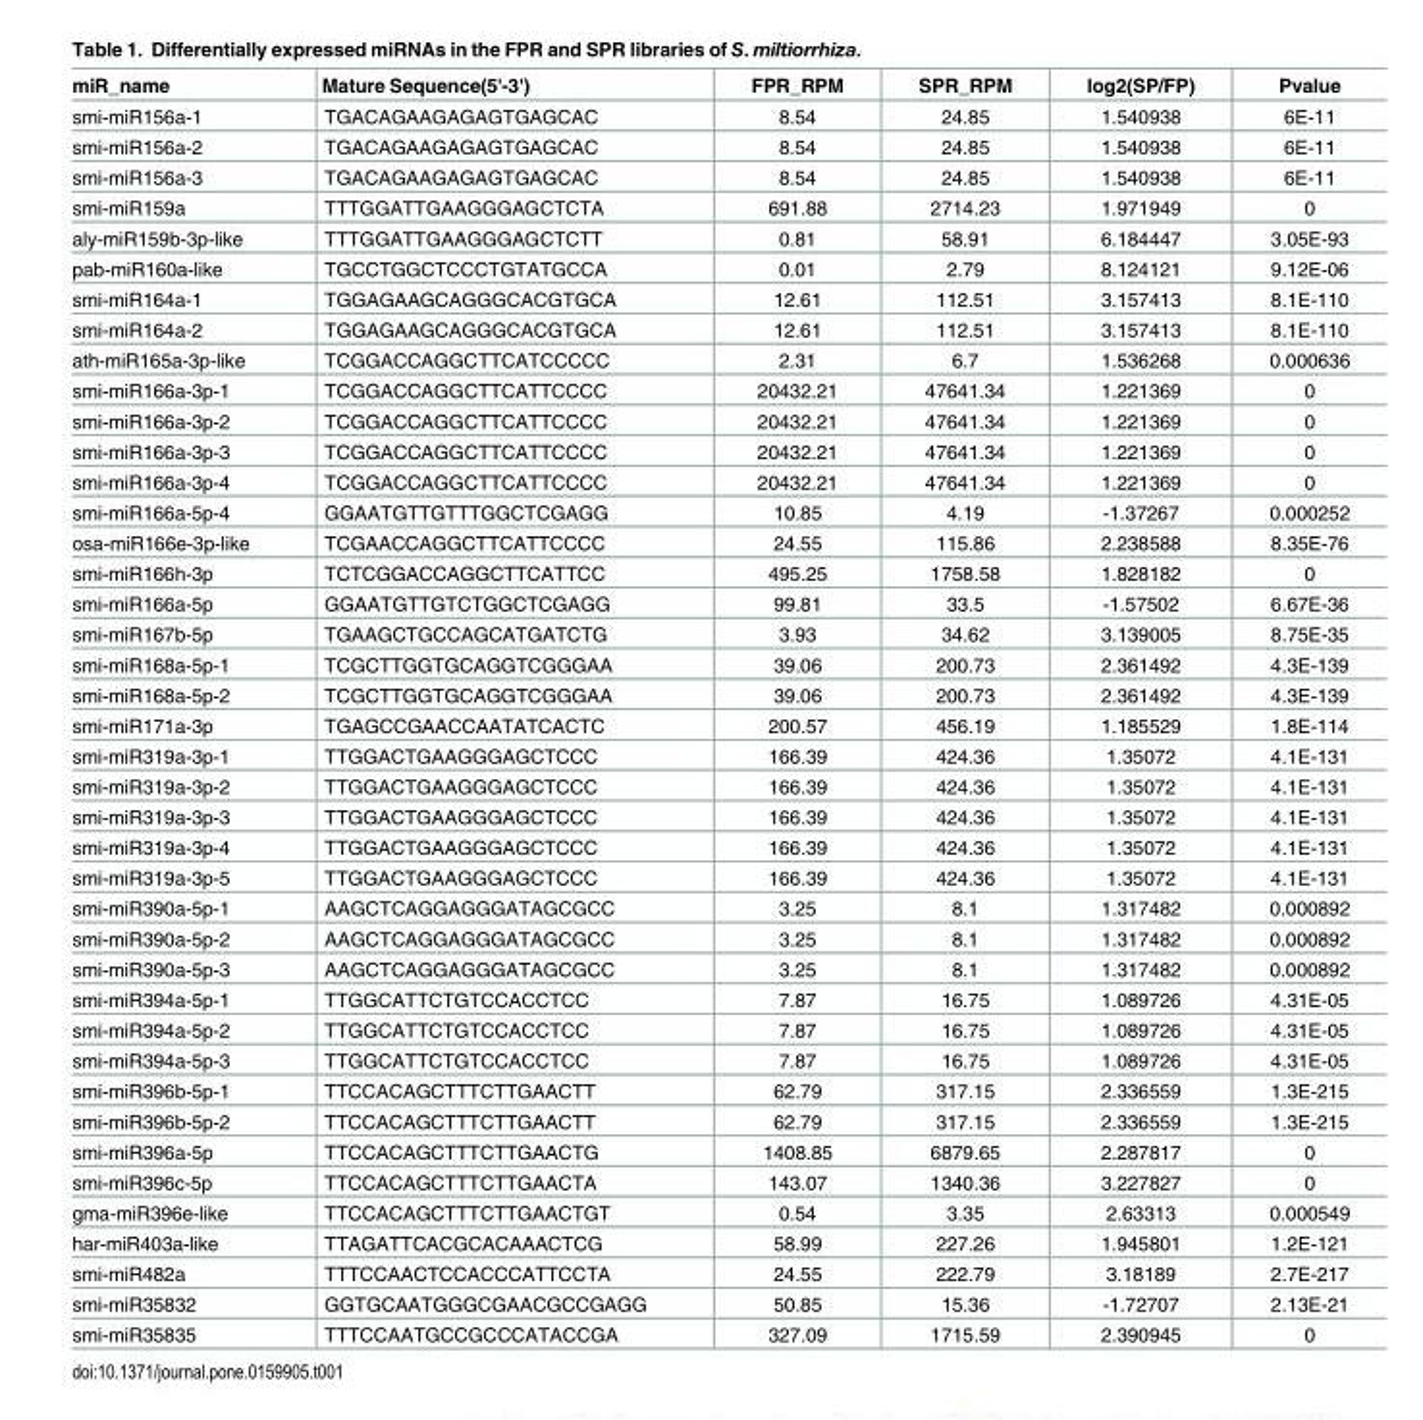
<table><thead><tr><td>miR_name</td><td>Mature Sequence(5&#x27;-3&#x27;)</td><td>FPR_RPM</td><td>SPR_RPM</td><td>log2(SP/FP)</td><td>Pvalue</td></tr></thead><tbody><tr><td>smi-miR156a-1</td><td>TGACAGAAGAGAGTGAGCAC</td><td>8.54</td><td>24.85</td><td>1.540938</td><td>6E-11</td></tr><tr><td>smi-miR156a-2</td><td>TGACAGAAGAGAGTGAGCAC</td><td>8.54</td><td>24.85</td><td>1.540938</td><td>6E-11</td></tr><tr><td>smi-miR156a-3</td><td>TGACAGAAGAGAGTGAGCAC</td><td>8.54</td><td>24.85</td><td>1.540938</td><td>6E-11</td></tr><tr><td>smi-miR159a</td><td>TTTGGATTGAAGGGAGCTCTA</td><td>691.88</td><td>2714.23</td><td>1.971949</td><td>0</td></tr><tr><td>aly-miR159b-3p-like</td><td>TTTGGATTGAAGGGAGCTCTT</td><td>0.81</td><td>58.91</td><td>6.184447</td><td>3.05E-93</td></tr><tr><td>pab-miR160a-like</td><td>TGCCTGGCTCCCTGTATGCCA</td><td>0.01</td><td>2.79</td><td>8.124121</td><td>9.12E-06</td></tr><tr><td>smi-miR164a-1</td><td>TGGAGAAGCAGGGCACGTGCA</td><td>12.61</td><td>112.51</td><td>3.157413</td><td>8.1E-110</td></tr><tr><td>smi-miR164a-2</td><td>TGGAGAAGCAGGGCACGTGCA</td><td>12.61</td><td>112.51</td><td>3.157413</td><td>8.1E-110</td></tr><tr><td>ath-miR165a-3p-like</td><td>TCGGACCAGGCTTCATCCCCC</td><td>2.31</td><td>6.7</td><td>1.536268</td><td>0.000636</td></tr><tr><td>smi-miR166a-3p-1</td><td>TCGGACCAGGCTTCATTCCCC</td><td>20432.21</td><td>47641.34</td><td>1.221369</td><td>0</td></tr><tr><td>smi-miR166a-3p-2</td><td>TCGGACCAGGCTTCATTCCCC</td><td>20432.21</td><td>47641.34</td><td>1.221369</td><td>0</td></tr><tr><td>smi-miR166a-3p-3</td><td>TCGGACCAGGCTTCATTCCCC</td><td>20432.21</td><td>47641.34</td><td>1.221369</td><td>0</td></tr><tr><td>smi-miR166a-3p-4</td><td>TCGGACCAGGCTTCATTCCCC</td><td>20432.21</td><td>47641.34</td><td>1.221369</td><td>0</td></tr><tr><td>smi-miR166a-5p-4</td><td>GGAATGTTGTTTGGCTCGAGG</td><td>10.85</td><td>4.19</td><td>-1.37267</td><td>0.000252</td></tr><tr><td>osa-miR166e-3p-like</td><td>TCGAACCAGGCTTCATTCCCC</td><td>24.55</td><td>115.86</td><td>2.238588</td><td>8.35E-76</td></tr><tr><td>smi-miR166h-3p</td><td>TCTCGGACCAGGCTTCATTCC</td><td>495.25</td><td>1758.58</td><td>1.828182</td><td>0</td></tr><tr><td>smi-miR166a-5p</td><td>GGAATGTTGTCTGGCTCGAGG</td><td>99.81</td><td>33.5</td><td>-1.57502</td><td>6.67E-36</td></tr><tr><td>smi-miR167b-5p</td><td>TGAAGCTGCCAGCATGATCTG</td><td>3.93</td><td>34.62</td><td>3.139005</td><td>8.75E-35</td></tr><tr><td>smi-miR168a-5p-1</td><td>TCGCTTGGTGCAGGTCGGGAA</td><td>39.06</td><td>200.73</td><td>2.361492</td><td>4.3E-139</td></tr><tr><td>smi-miR168a-5p-2</td><td>TCGCTTGGTGCAGGTCGGGAA</td><td>39.06</td><td>200.73</td><td>2.361492</td><td>4.3E-139</td></tr><tr><td>smi-miR171a-3p</td><td>TGAGCCGAACCAATATCACTC</td><td>200.57</td><td>456.19</td><td>1.185529</td><td>1.8E-114</td></tr><tr><td>smi-miR319a-3p-1</td><td>TTGGACTGAAGGGAGCTCCC</td><td>166.39</td><td>424.36</td><td>1.35072</td><td>4.1E-131</td></tr><tr><td>smi-miR319a-3p-2</td><td>TTGGACTGAAGGGAGCTCCC</td><td>166.39</td><td>424.36</td><td>1.35072</td><td>4.1E-131</td></tr><tr><td>smi-miR319a-3p-3</td><td>TTGGACTGAAGGGAGCTCCC</td><td>166.39</td><td>424.36</td><td>1.35072</td><td>4.1E-131</td></tr><tr><td>smi-miR319a-3p-4</td><td>TTGGACTGAAGGGAGCTCCC</td><td>166.39</td><td>424.36</td><td>1.35072</td><td>4.1E-131</td></tr><tr><td>smi-miR319a-3p-5</td><td>TTGGACTGAAGGGAGCTCCC</td><td>166.39</td><td>424.36</td><td>1.35072</td><td>4.1E-131</td></tr><tr><td>smi-miR390a-5p-1</td><td>AAGCTCAGGAGGGATAGCGCC</td><td>3.25</td><td>8.1</td><td>1.317482</td><td>0.000892</td></tr><tr><td>smi-miR390a-5p-2</td><td>AAGCTCAGGAGGGATAGCGCC</td><td>3.25</td><td>8.1</td><td>1.317482</td><td>0.000892</td></tr><tr><td>smi-miR390a-5p-3</td><td>AAGCTCAGGAGGGATAGCGCC</td><td>3.25</td><td>8.1</td><td>1.317482</td><td>0.000892</td></tr><tr><td>smi-miR394a-5p-1</td><td>TTGGCATTCTGTCCACCTCC</td><td>7.87</td><td>16.75</td><td>1.089726</td><td>4.31E-05</td></tr><tr><td>smi-miR394a-5p-2</td><td>TTGGCATTCTGTCCACCTCC</td><td>7.87</td><td>16.75</td><td>1.089726</td><td>4.31E-05</td></tr><tr><td>smi-miR394a-5p-3</td><td>TTGGCATTCTGTCCACCTCC</td><td>7.87</td><td>16.75</td><td>1.089726</td><td>4.31E-05</td></tr><tr><td>smi-miR396b-5p-1</td><td>TTCCACAGCTTTCTTGAACTT</td><td>62.79</td><td>317.15</td><td>2.336559</td><td>1.3E-215</td></tr><tr><td>smi-miR396b-5p-2</td><td>TTCCACAGCTTTCTTGAACTT</td><td>62.79</td><td>317.15</td><td>2.336559</td><td>1.3E-215</td></tr><tr><td>smi-miR396a-5p</td><td>TTCCACAGCTTTCTTGAACTG</td><td>1408.85</td><td>6879.65</td><td>2.287817</td><td>0</td></tr><tr><td>smi-miR396c-5p</td><td>TTCCACAGCTTTCTTGAACTA</td><td>143.07</td><td>1340.36</td><td>3.227827</td><td>0</td></tr><tr><td>gma-miR396e-like</td><td>TTCCACAGCTTTCTTGAACTGT</td><td>0.54</td><td>3.35</td><td>2.63313</td><td>0.000549</td></tr><tr><td>har-miR403a-like</td><td>TTAGATTCACGCACAAACTCG</td><td>58.99</td><td>227.26</td><td>1.945801</td><td>1.2E-121</td></tr><tr><td>smi-miR482a</td><td>TTTCCAACTCCACCCATTCCTA</td><td>24.55</td><td>222.79</td><td>3.18189</td><td>2.7E-217</td></tr><tr><td>smi-miR35832</td><td>GGTGCAATGGGCGAACGCCGAGG</td><td>50.85</td><td>15.36</td><td>-1.72707</td><td>2.13E-21</td></tr><tr><td>smi-miR35835</td><td>TTTCCAATGCCGCCCATACCGA</td><td>327.09</td><td>1715.59</td><td>2.390945</td><td>0</td></tr></tbody></table>